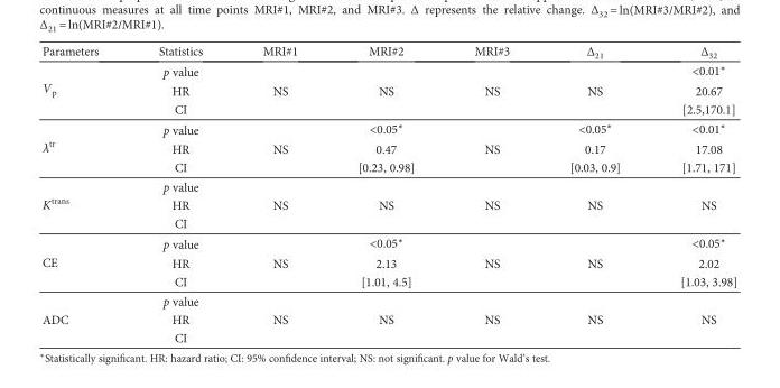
<table><thead><tr><td>Parameters</td><td>Statistics</td><td>MRI#1</td><td>MRI#2</td><td>MRI#3</td><td>Δ<sub>21</sub></td><td>Δ<sub>32</sub></td></tr></thead><tbody><tr><td rowspan="3">V<sub>p</sub></td><td>p value</td><td></td><td></td><td></td><td></td><td>&lt;0.01∗</td></tr><tr><td>HR</td><td>NS</td><td>NS</td><td>NS</td><td>NS</td><td>20.67</td></tr><tr><td>CI</td><td></td><td></td><td></td><td></td><td>[2.5,170.1]</td></tr><tr><td rowspan="3">λ<sup>tr</sup></td><td>p value</td><td></td><td>&lt;0.05∗</td><td></td><td>&lt;0.05∗</td><td>&lt;0.01∗</td></tr><tr><td>HR</td><td>NS</td><td>0.47</td><td>NS</td><td>0.17</td><td>17.08</td></tr><tr><td>CI</td><td></td><td>[0.23, 0.98]</td><td></td><td>[0.03, 0.9]</td><td>[1.71, 171]</td></tr><tr><td rowspan="3">K<sup>trans</sup></td><td>p value</td><td></td><td></td><td></td><td></td><td></td></tr><tr><td>HR</td><td>NS</td><td>NS</td><td>NS</td><td>NS</td><td>NS</td></tr><tr><td>CI</td><td></td><td></td><td></td><td></td><td></td></tr><tr><td rowspan="3">CE</td><td>p value</td><td></td><td>&lt;0.05∗</td><td></td><td></td><td>&lt;0.05∗</td></tr><tr><td>HR</td><td>NS</td><td>2.13</td><td>NS</td><td>NS</td><td>2.02</td></tr><tr><td>CI</td><td></td><td>[1.01, 4.5]</td><td></td><td></td><td>[1.03, 3.98]</td></tr><tr><td rowspan="3">ADC</td><td>p value</td><td></td><td></td><td></td><td></td><td></td></tr><tr><td>HR</td><td>NS</td><td>NS</td><td>NS</td><td>NS</td><td>NS</td></tr><tr><td>CI</td><td></td><td></td><td></td><td></td><td></td></tr></tbody></table>